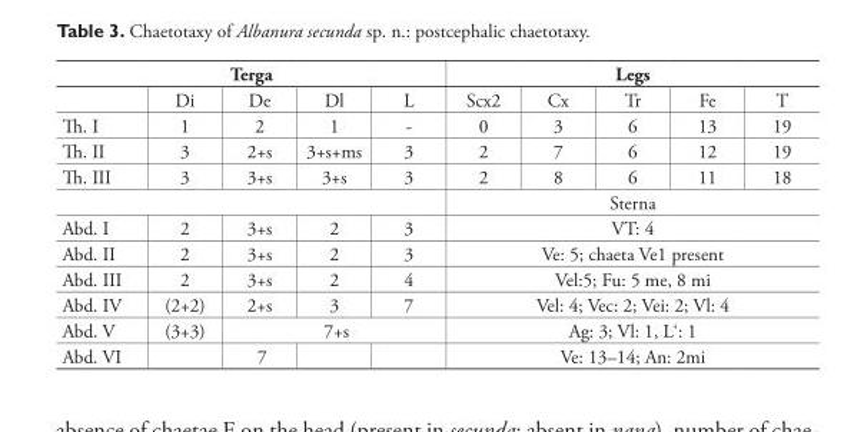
<table><thead><tr><td colspan="5">Terga</td><td colspan="5">Legs</td></tr><tr><td></td><td>Di</td><td>De</td><td>Dl</td><td>L</td><td>Scx2</td><td>Cx</td><td>Tr</td><td>Fe</td><td>T</td></tr></thead><tbody><tr><td>Th. I</td><td>1</td><td>2</td><td>1</td><td>-</td><td>0</td><td>3</td><td>6</td><td>13</td><td>19</td></tr><tr><td>Th. II</td><td>3</td><td>2+s</td><td>3+s+ms</td><td>3</td><td>2</td><td>7</td><td>6</td><td>12</td><td>19</td></tr><tr><td>Th. III</td><td>3</td><td>3+s</td><td>3+s</td><td>3</td><td>2</td><td>8</td><td>6</td><td>11</td><td>18</td></tr><tr><td colspan="5"></td><td colspan="5">Sterna</td></tr><tr><td>Abd. I</td><td>2</td><td>3+s</td><td>2</td><td>3</td><td colspan="5">VT: 4</td></tr><tr><td>Abd. II</td><td>2</td><td>3+s</td><td>2</td><td>3</td><td colspan="5">Ve: 5; chaeta Ve1 present</td></tr><tr><td>Abd. III</td><td>2</td><td>3+s</td><td>2</td><td>4</td><td colspan="5">Vel:5; Fu: 5 me, 8 mi</td></tr><tr><td>Abd. IV</td><td>(2+2)</td><td>2+s</td><td>3</td><td>7</td><td colspan="5">Vel: 4; Vec: 2; Vei: 2; Vl: 4</td></tr><tr><td>Abd. V</td><td>(3+3)</td><td colspan="3">7+s</td><td colspan="5">Ag: 3; Vl: 1, L‘: 1</td></tr><tr><td>Abd. VI</td><td></td><td>7</td><td></td><td></td><td colspan="5">Ve: 13–14; An: 2mi</td></tr></tbody></table>